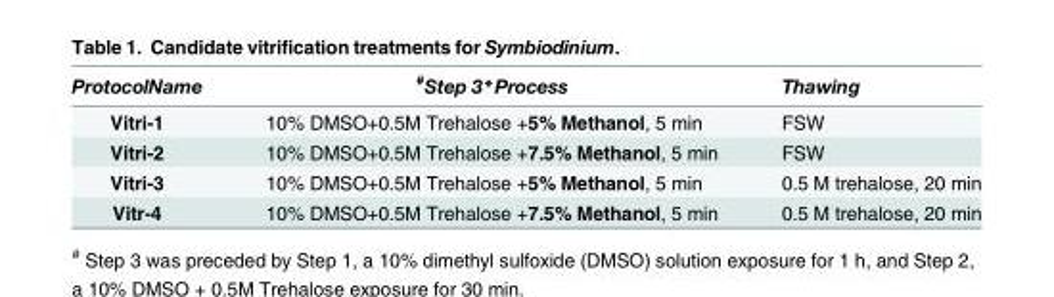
<table><thead><tr><td>ProtocolName</td><td><sup>#</sup>Step 3*Process</td><td>Thawing</td></tr></thead><tbody><tr><td>Vitri-1</td><td>10% DMSO+0.5M Trehalose +5% Methanol, 5 min</td><td>FSW</td></tr><tr><td>Vitri-2</td><td>10% DMSO+0.5M Trehalose +7.5% Methanol, 5 min</td><td>FSW</td></tr><tr><td>Vitri-3</td><td>10% DMSO+0.5M Trehalose +5% Methanol, 5 min</td><td>0.5 M trehalose, 20 min</td></tr><tr><td>Vitr-4</td><td>10% DMSO+0.5M Trehalose +7.5% Methanol, 5 min</td><td>0.5 M trehalose, 20 min</td></tr></tbody></table>